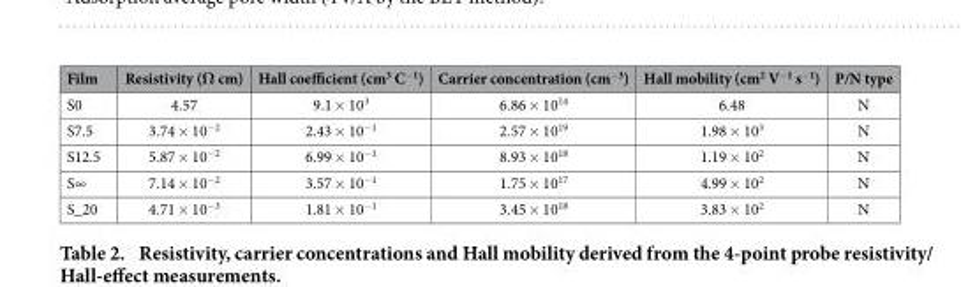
<table><thead><tr><td>Film</td><td>Resistivity (Ω cm)</td><td>Hall coefficient (cm<sup>3</sup> C<sup>−1</sup>)</td><td>Carrier concentration (cm<sup>−3</sup>)</td><td>Hall mobility (cm<sup>2</sup> V<sup>−1</sup> s<sup>−1</sup>)</td><td>P/N type</td></tr></thead><tbody><tr><td>S0</td><td>4.57</td><td>9.1 × 10<sup>3</sup></td><td>6.86 × 10<sup>14</sup></td><td>6.48</td><td>N</td></tr><tr><td>S7.5</td><td>3.74 × 10<sup>−2</sup></td><td>2.43 × 10<sup>−1</sup></td><td>2.57 × 10<sup>19</sup></td><td>1.98 × 10<sup>3</sup></td><td>N</td></tr><tr><td>S12.5</td><td>5.87 × 10<sup>−2</sup></td><td>6.99 × 10<sup>−1</sup></td><td>8.93 × 10<sup>18</sup></td><td>1.19 × 10<sup>2</sup></td><td>N</td></tr><tr><td>S∞</td><td>7.14 × 10<sup>−2</sup></td><td>3.57 × 10<sup>−1</sup></td><td>1.75 × 10<sup>17</sup></td><td>4.99 × 10<sup>2</sup></td><td>N</td></tr><tr><td>S_20</td><td>4.71 × 10<sup>−3</sup></td><td>1.81 × 10<sup>−1</sup></td><td>3.45 × 10<sup>18</sup></td><td>3.83 × 10<sup>2</sup></td><td>N</td></tr></tbody></table>